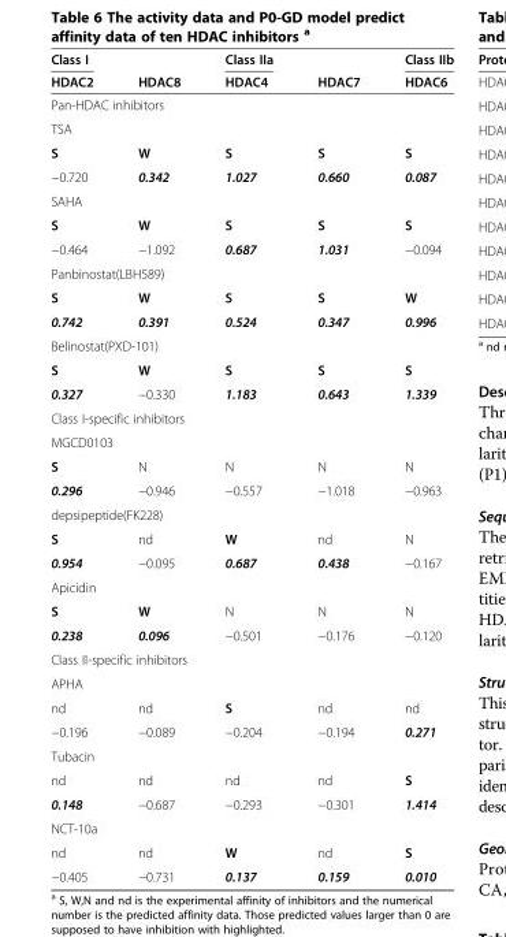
<table><thead><tr><td rowspan="2">Class I HDAC2</td><td rowspan="2">HDAC8</td><td rowspan="2">Class IIa HDAC4</td><td rowspan="2">HDAC7</td><td rowspan="2">Class IIb HDAC6</td></tr><tr></tr></thead><tbody><tr><td colspan="5">Pan-HDAC inhibitors</td></tr><tr><td colspan="5">TSA</td></tr><tr><td>S</td><td>W</td><td>S</td><td>S</td><td>S</td></tr><tr><td>−0.720</td><td>0.342</td><td>1.027</td><td>0.660</td><td>0.087</td></tr><tr><td colspan="5">SAHA</td></tr><tr><td>S</td><td>W</td><td>S</td><td>S</td><td>S</td></tr><tr><td>−0.464</td><td>−1.092</td><td>0.687</td><td>1.031</td><td>−0.094</td></tr><tr><td colspan="5">Panbinostat(LBH589)</td></tr><tr><td>S</td><td>W</td><td>S</td><td>S</td><td>W</td></tr><tr><td>0.742</td><td>0.391</td><td>0.524</td><td>0.347</td><td>0.996</td></tr><tr><td colspan="5">Belinostat(PXD-101)</td></tr><tr><td>S</td><td>W</td><td>S</td><td>S</td><td>S</td></tr><tr><td>0.327</td><td>−0.330</td><td>1.183</td><td>0.643</td><td>1.339</td></tr><tr><td colspan="5">Class I-specific inhibitors</td></tr><tr><td colspan="5">MGCD0103</td></tr><tr><td>S</td><td>N</td><td>N</td><td>N</td><td>N</td></tr><tr><td>0.296</td><td>−0.946</td><td>−0.557</td><td>−1.018</td><td>−0.963</td></tr><tr><td colspan="5">depsipeptide(FK228)</td></tr><tr><td>S</td><td>nd</td><td>W</td><td>nd</td><td>N</td></tr><tr><td>0.954</td><td>−0.095</td><td>0.687</td><td>0.438</td><td>−0.167</td></tr><tr><td colspan="5">Apicidin</td></tr><tr><td>S</td><td>W</td><td>N</td><td>N</td><td>N</td></tr><tr><td>0.238</td><td>0.096</td><td>−0.501</td><td>−0.176</td><td>−0.120</td></tr><tr><td colspan="5">Class II-specific inhibitors</td></tr><tr><td colspan="5">APHA</td></tr><tr><td>nd</td><td>nd</td><td>S</td><td>nd</td><td>nd</td></tr><tr><td>−0.196</td><td>−0.089</td><td>−0.204</td><td>−0.194</td><td>0.271</td></tr><tr><td colspan="5">Tubacin</td></tr><tr><td>nd</td><td>nd</td><td>nd</td><td>nd</td><td>S</td></tr><tr><td>0.148</td><td>−0.687</td><td>−0.293</td><td>−0.301</td><td>1.414</td></tr><tr><td colspan="5">NCT-10a</td></tr><tr><td>nd</td><td>nd</td><td>W</td><td>nd</td><td>S</td></tr><tr><td>−0.405</td><td>−0.731</td><td>0.137</td><td>0.159</td><td>0.010</td></tr></tbody></table>